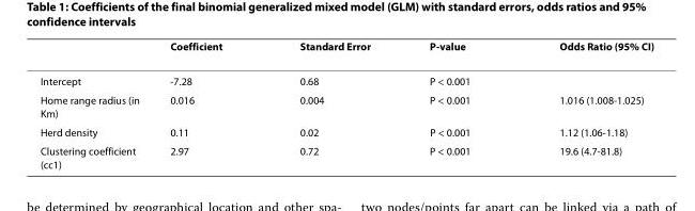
<table><thead><tr><td></td><td>Coefficient</td><td>Standard Error</td><td>P-value</td><td>Odds Ratio (95% CI)</td></tr></thead><tbody><tr><td>Intercept</td><td>-7.28</td><td>0.68</td><td>P &lt; 0.001</td><td></td></tr><tr><td>Home range radius (in Km)</td><td>0.016</td><td>0.004</td><td>P &lt; 0.001</td><td>1.016 (1.008-1.025)</td></tr><tr><td>Herd density</td><td>0.11</td><td>0.02</td><td>P &lt; 0.001</td><td>1.12 (1.06-1.18)</td></tr><tr><td>Clustering coefficient (cc1)</td><td>2.97</td><td>0.72</td><td>P &lt; 0.001</td><td>19.6 (4.7-81.8)</td></tr></tbody></table>